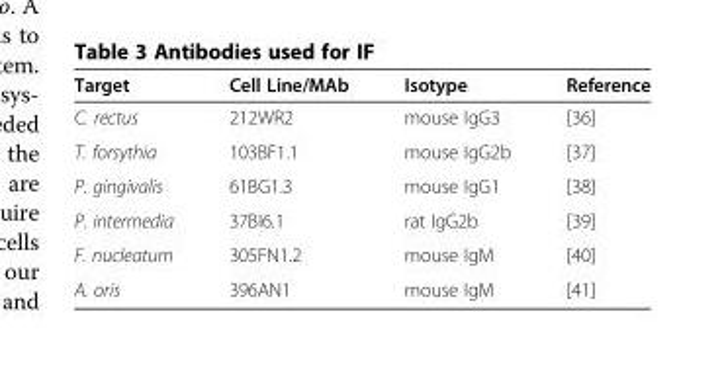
<table><thead><tr><td>Target</td><td>Cell Line/MAb</td><td>Isotype</td><td>Reference</td></tr></thead><tbody><tr><td>C. rectus</td><td>212WR2</td><td>mouse IgG3</td><td>[36]</td></tr><tr><td>T. forsythia</td><td>103BF1.1</td><td>mouse IgG2b</td><td>[37]</td></tr><tr><td>P. gingivalis</td><td>61BG1.3</td><td>mouse IgG1</td><td>[38]</td></tr><tr><td>P. intermedia</td><td>37BI6.1</td><td>rat IgG2b</td><td>[39]</td></tr><tr><td>F. nucleatum</td><td>305FN1.2</td><td>mouse IgM</td><td>[40]</td></tr><tr><td>A. oris</td><td>396AN1</td><td>mouse IgM</td><td>[41]</td></tr></tbody></table>